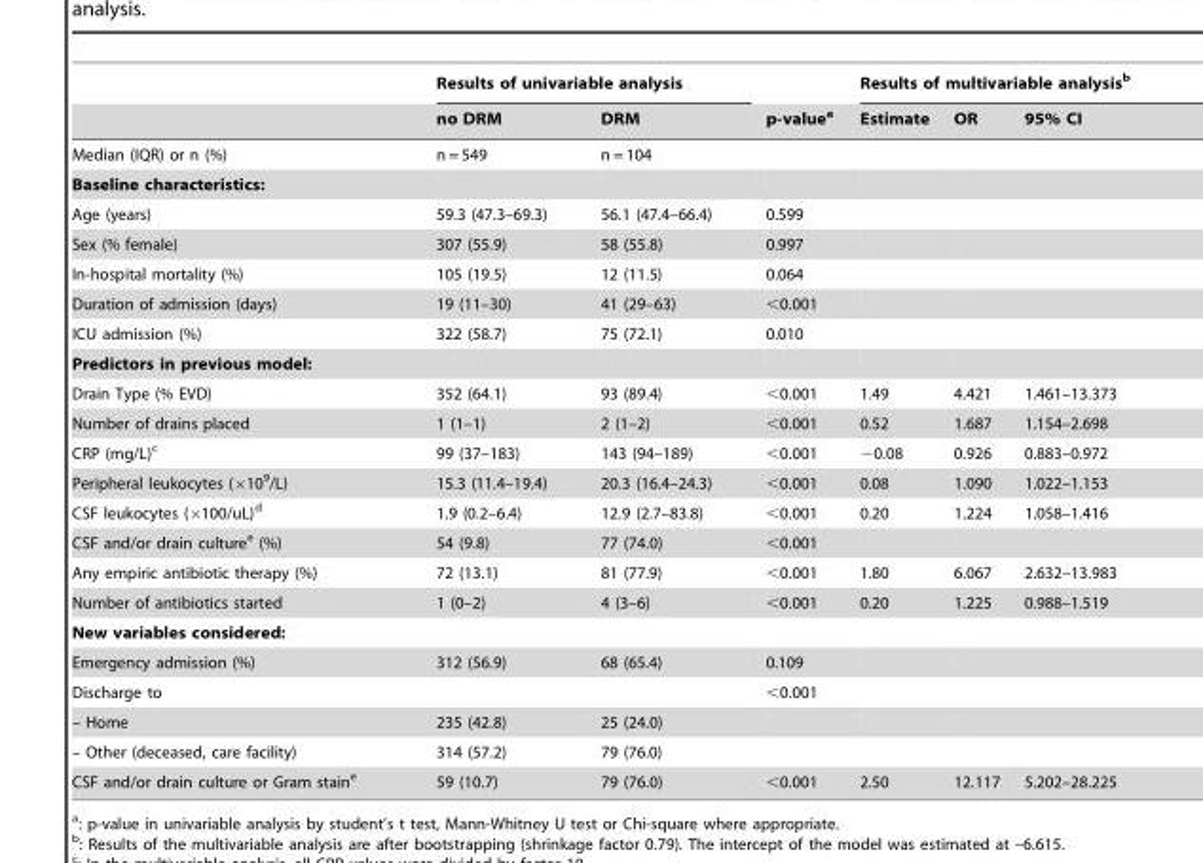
<table><thead><tr><td rowspan="2"></td><td colspan="2">Results of univariable analysis</td><td rowspan="2">p-value<sup>a</sup></td><td colspan="3">Results of multivariable analysis<sup>b</sup></td></tr><tr><td>no DRM</td><td>DRM</td><td>Estimate</td><td>OR</td><td>95% CI</td></tr></thead><tbody><tr><td>Median (IQR) or n (%)</td><td>n = 549</td><td>n = 104</td><td></td><td></td><td></td><td></td></tr><tr><td colspan="7">Baseline characteristics:</td></tr><tr><td>Age (years)</td><td>59.3 (47.3–69.3)</td><td>56.1 (47.4–66.4)</td><td>0.599</td><td></td><td></td><td></td></tr><tr><td>Sex (% female)</td><td>307 (55.9)</td><td>58 (55.8)</td><td>0.997</td><td></td><td></td><td></td></tr><tr><td>In-hospital mortality (%)</td><td>105 (19.5)</td><td>12 (11.5)</td><td>0.064</td><td></td><td></td><td></td></tr><tr><td>Duration of admission (days)</td><td>19 (11–30)</td><td>41 (29–63)</td><td>&lt;0.001</td><td></td><td></td><td></td></tr><tr><td>ICU admission (%)</td><td>322 (58.7)</td><td>75 (72.1)</td><td>0.010</td><td></td><td></td><td></td></tr><tr><td colspan="7">Predictors in previous model:</td></tr><tr><td>Drain Type (% EVD)</td><td>352 (64.1)</td><td>93 (89.4)</td><td>&lt;0.001</td><td>1.49</td><td>4.421</td><td>1.461–13.373</td></tr><tr><td>Number of drains placed</td><td>1 (1–1)</td><td>2 (1–2)</td><td>&lt;0.001</td><td>0.52</td><td>1.687</td><td>1.154–2.698</td></tr><tr><td>CRP (mg/L)<sup>c</sup></td><td>99 (37–183)</td><td>143 (94–189)</td><td>&lt;0.001</td><td>−0.08</td><td>0.926</td><td>0.883–0.972</td></tr><tr><td>Peripheral leukocytes (×10<sup>9</sup>/L)</td><td>15.3 (11.4–19.4)</td><td>20.3 (16.4–24.3)</td><td>&lt;0.001</td><td>0.08</td><td>1.090</td><td>1.022–1.153</td></tr><tr><td>CSF leukocytes (×100/uL)<sup>d</sup></td><td>1.9 (0.2–6.4)</td><td>12.9 (2.7–83.8)</td><td>&lt;0.001</td><td>0.20</td><td>1.224</td><td>1.058–1.416</td></tr><tr><td>CSF and/or drain culture<sup>e</sup> (%)</td><td>54 (9.8)</td><td>77 (74.0)</td><td>&lt;0.001</td><td></td><td></td><td></td></tr><tr><td>Any empiric antibiotic therapy (%)</td><td>72 (13.1)</td><td>81 (77.9)</td><td>&lt;0.001</td><td>1.80</td><td>6.067</td><td>2.632–13.983</td></tr><tr><td>Number of antibiotics started</td><td>1 (0–2)</td><td>4 (3–6)</td><td>&lt;0.001</td><td>0.20</td><td>1.225</td><td>0.988–1.519</td></tr><tr><td colspan="7">New variables considered:</td></tr><tr><td>Emergency admission (%)</td><td>312 (56.9)</td><td>68 (65.4)</td><td>0.109</td><td></td><td></td><td></td></tr><tr><td>Discharge to</td><td></td><td></td><td>&lt;0.001</td><td></td><td></td><td></td></tr><tr><td>– Home</td><td>235 (42.8)</td><td>25 (24.0)</td><td></td><td></td><td></td><td></td></tr><tr><td>– Other (deceased, care facility)</td><td>314 (57.2)</td><td>79 (76.0)</td><td></td><td></td><td></td><td></td></tr><tr><td>CSF and/or drain culture or Gram stain<sup>e</sup></td><td>59 (10.7)</td><td>79 (76.0)</td><td>&lt;0.001</td><td>2.50</td><td>12.117</td><td>5.202–28.225</td></tr></tbody></table>